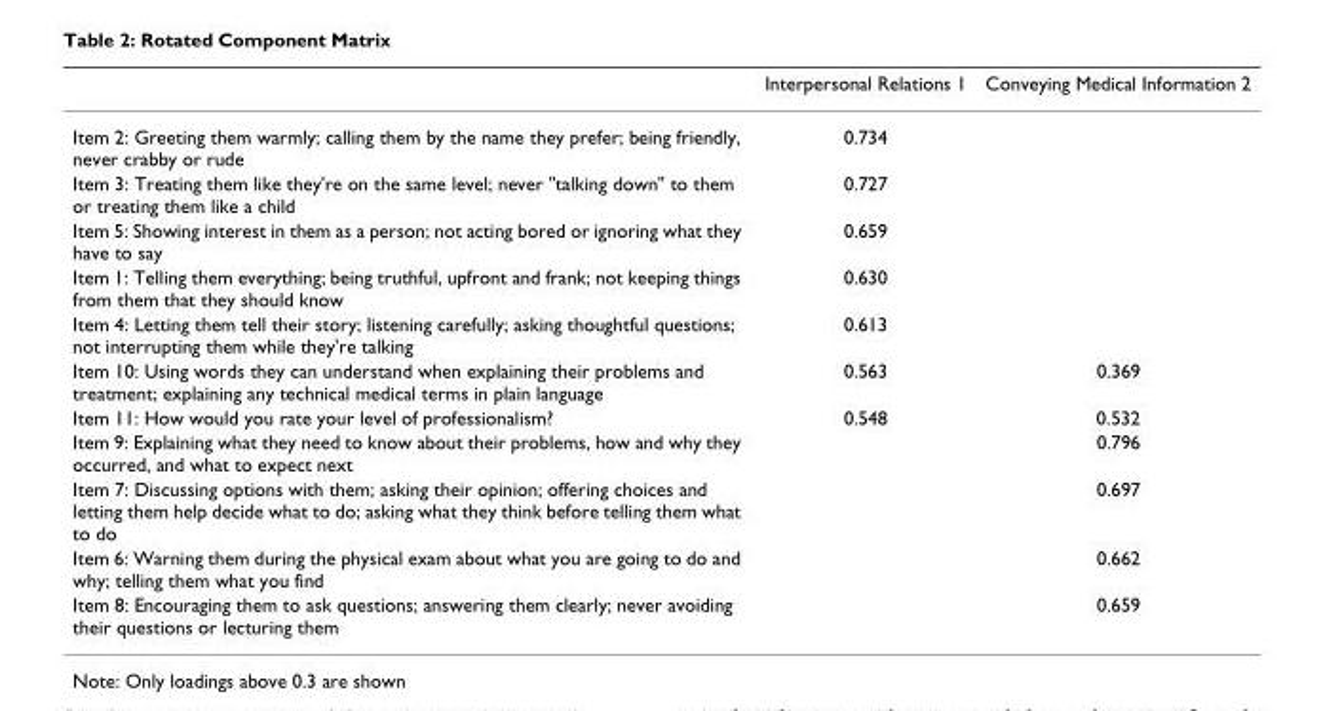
<table><thead><tr><td></td><td>Interpersonal Relations 1</td><td>Conveying Medical Information 2</td></tr></thead><tbody><tr><td>Item 2: Greeting them warmly; calling them by the name they prefer; being friendly, never crabby or rude</td><td>0.734</td><td></td></tr><tr><td>Item 3: Treating them like they&#x27;re on the same level; never &quot;talking down&quot; to them or treating them like a child</td><td>0.727</td><td></td></tr><tr><td>Item 5: Showing interest in them as a person; not acting bored or ignoring what they have to say</td><td>0.659</td><td></td></tr><tr><td>Item 1: Telling them everything; being truthful, upfront and frank; not keeping things from them that they should know</td><td>0.630</td><td></td></tr><tr><td>Item 4: Letting them tell their story; listening carefully; asking thoughtful questions; not interrupting them while they&#x27;re talking</td><td>0.613</td><td></td></tr><tr><td>Item 10: Using words they can understand when explaining their problems and treatment; explaining any technical medical terms in plain language</td><td>0.563</td><td>0.369</td></tr><tr><td>Item 11: How would you rate your level of professionalism?</td><td>0.548</td><td>0.532</td></tr><tr><td>Item 9: Explaining what they need to know about their problems, how and why they occurred, and what to expect next</td><td></td><td>0.796</td></tr><tr><td>Item 7: Discussing options with them; asking their opinion; offering choices and letting them help decide what to do; asking what they think before telling them what to do</td><td></td><td>0.697</td></tr><tr><td>Item 6: Warning them during the physical exam about what you are going to do and why; telling them what you find</td><td></td><td>0.662</td></tr><tr><td>Item 8: Encouraging them to ask questions; answering them clearly; never avoiding their questions or lecturing them</td><td></td><td>0.659</td></tr></tbody></table>